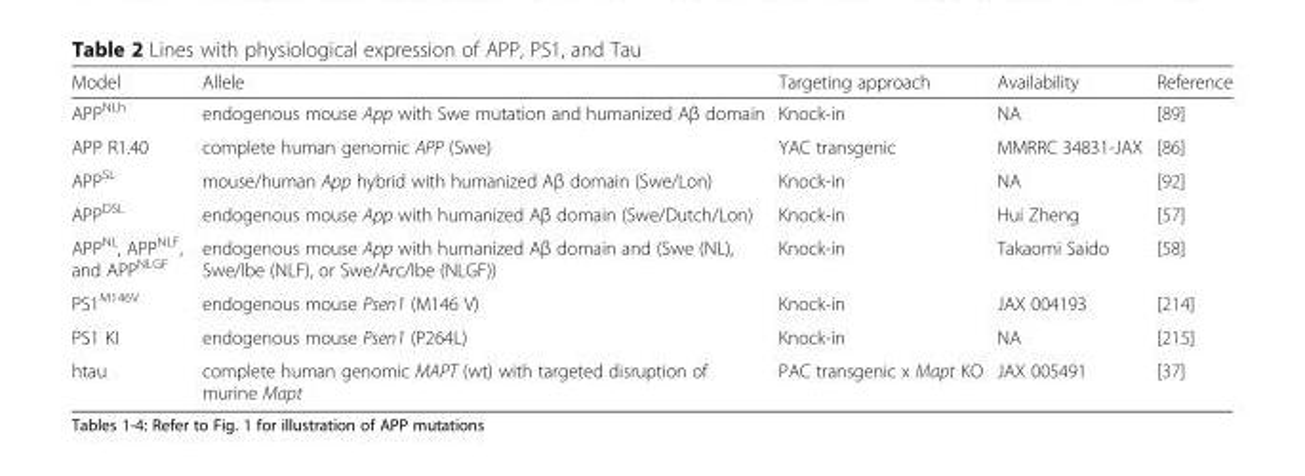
<table><thead><tr><td>Model</td><td>Allele</td><td>Targeting approach</td><td>Availability</td><td>Reference</td></tr></thead><tbody><tr><td>APP<sup>NLh</sup></td><td>endogenous mouse App with Swe mutation and humanized Aβ domain</td><td>Knock-in</td><td>NA</td><td>[89]</td></tr><tr><td>APP R1.40</td><td>complete human genomic APP (Swe)</td><td>YAC transgenic</td><td>MMRRC 34831-JAX</td><td>[86]</td></tr><tr><td>APP<sup>SL</sup></td><td>mouse/human App hybrid with humanized Aβ domain (Swe/Lon)</td><td>Knock-in</td><td>NA</td><td>[92]</td></tr><tr><td>APP<sup>DSL</sup></td><td>endogenous mouse App with humanized Aβ domain (Swe/Dutch/Lon)</td><td>Knock-in</td><td>Hui Zheng</td><td>[57]</td></tr><tr><td>APP<sup>NL</sup>, APP<sup>NLF</sup>, and APP<sup>NLGF</sup></td><td>endogenous mouse App with humanized Aβ domain and (Swe (NL), Swe/Ibe (NLF), or Swe/Arc/Ibe (NLGF))</td><td>Knock-in</td><td>Takaomi Saido</td><td>[58]</td></tr><tr><td>PS1<sup>M146V</sup></td><td>endogenous mouse Psen1 (M146 V)</td><td>Knock-in</td><td>JAX 004193</td><td>[214]</td></tr><tr><td>PS1 KI</td><td>endogenous mouse Psen1 (P264L)</td><td>Knock-in</td><td>NA</td><td>[215]</td></tr><tr><td>htau</td><td>complete human genomic MAPT (wt) with targeted disruption of murine Mapt</td><td>PAC transgenic x Mapt KO</td><td>JAX 005491</td><td>[37]</td></tr></tbody></table>